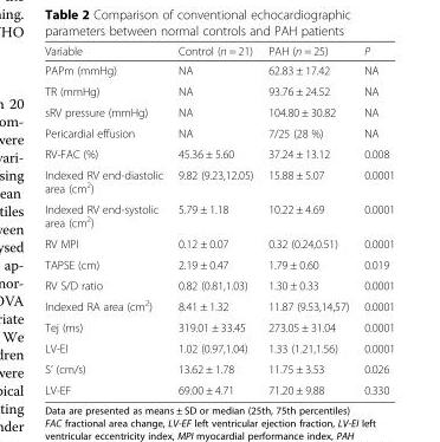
<table><thead><tr><td>Variable</td><td>Control (n = 21)</td><td>PAH (n = 25)</td><td>P</td></tr></thead><tbody><tr><td>PAPm (mmHg)</td><td>NA</td><td>62.83 ± 17.42</td><td>NA</td></tr><tr><td>TR (mmHg)</td><td>NA</td><td>93.76 ± 24.52</td><td>NA</td></tr><tr><td>sRV pressure (mmHg)</td><td>NA</td><td>104.80 ± 30.82</td><td>NA</td></tr><tr><td>Pericardial effusion</td><td>NA</td><td>7/25 (28 %)</td><td>NA</td></tr><tr><td>RV-FAC (%)</td><td>45.36 ± 5.60</td><td>37.24 ± 13.12</td><td>0.008</td></tr><tr><td>Indexed RV end-diastolic area (cm<sup>2</sup>)</td><td>9.82 (9.23,12.05)</td><td>15.88 ± 5.07</td><td>0.0001</td></tr><tr><td>Indexed RV end-systolic area (cm<sup>2</sup>)</td><td>5.79 ± 1.18</td><td>10.22 ± 4.69</td><td>0.0001</td></tr><tr><td>RV MPI</td><td>0.12 ± 0.07</td><td>0.32 (0.24,0.51)</td><td>0.0001</td></tr><tr><td>TAPSE (cm)</td><td>2.19 ± 0.47</td><td>1.79 ± 0.60</td><td>0.019</td></tr><tr><td>RV S/D ratio</td><td>0.82 (0.81,1.03)</td><td>1.30 ± 0.33</td><td>0.0001</td></tr><tr><td>Indexed RA area (cm<sup>2</sup>)</td><td>8.41 ± 1.32</td><td>11.87 (9.53,14,57)</td><td>0.0001</td></tr><tr><td>Tej (ms)</td><td>319.01 ± 33.45</td><td>273.05 ± 31.04</td><td>0.0001</td></tr><tr><td>LV-EI</td><td>1.02 (0.97,1.04)</td><td>1.33 (1.21,1.56)</td><td>0.0001</td></tr><tr><td>S’ (cm/s)</td><td>13.62 ± 1.78</td><td>11.75 ± 3.53</td><td>0.026</td></tr><tr><td>LV-EF</td><td>69.00 ± 4.71</td><td>71.20 ± 9.88</td><td>0.330</td></tr></tbody></table>